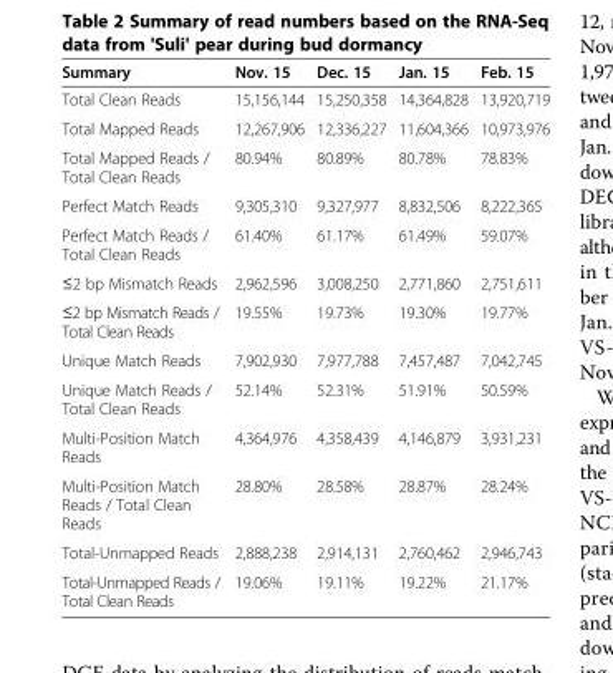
<table><thead><tr><td>Summary</td><td>Nov. 15</td><td>Dec. 15</td><td>Jan. 15</td><td>Feb. 15</td></tr></thead><tbody><tr><td>Total Clean Reads</td><td>15,156,144</td><td>15,250,358</td><td>14,364,828</td><td>13,920,719</td></tr><tr><td>Total Mapped Reads</td><td>12,267,906</td><td>12,336,227</td><td>11,604,366</td><td>10,973,976</td></tr><tr><td>Total Mapped Reads / Total Clean Reads</td><td>80.94%</td><td>80.89%</td><td>80.78%</td><td>78.83%</td></tr><tr><td>Perfect Match Reads</td><td>9,305,310</td><td>9,327,977</td><td>8,832,506</td><td>8,222,365</td></tr><tr><td>Perfect Match Reads / Total Clean Reads</td><td>61.40%</td><td>61.17%</td><td>61.49%</td><td>59.07%</td></tr><tr><td>≤2 bp Mismatch Reads</td><td>2,962,596</td><td>3,008,250</td><td>2,771,860</td><td>2,751,611</td></tr><tr><td>≤2 bp Mismatch Reads / Total Clean Reads</td><td>19.55%</td><td>19.73%</td><td>19.30%</td><td>19.77%</td></tr><tr><td>Unique Match Reads</td><td>7,902,930</td><td>7,977,788</td><td>7,457,487</td><td>7,042,745</td></tr><tr><td>Unique Match Reads / Total Clean Reads</td><td>52.14%</td><td>52.31%</td><td>51.91%</td><td>50.59%</td></tr><tr><td>Multi-Position Match Reads</td><td>4,364,976</td><td>4,358,439</td><td>4,146,879</td><td>3,931,231</td></tr><tr><td>Multi-Position Match Reads / Total Clean Reads</td><td>28.80%</td><td>28.58%</td><td>28.87%</td><td>28.24%</td></tr><tr><td>Total-Unmapped Reads</td><td>2,888,238</td><td>2,914,131</td><td>2,760,462</td><td>2,946,743</td></tr><tr><td>Total-Unmapped Reads / Total Clean Reads</td><td>19.06%</td><td>19.11%</td><td>19.22%</td><td>21.17%</td></tr></tbody></table>